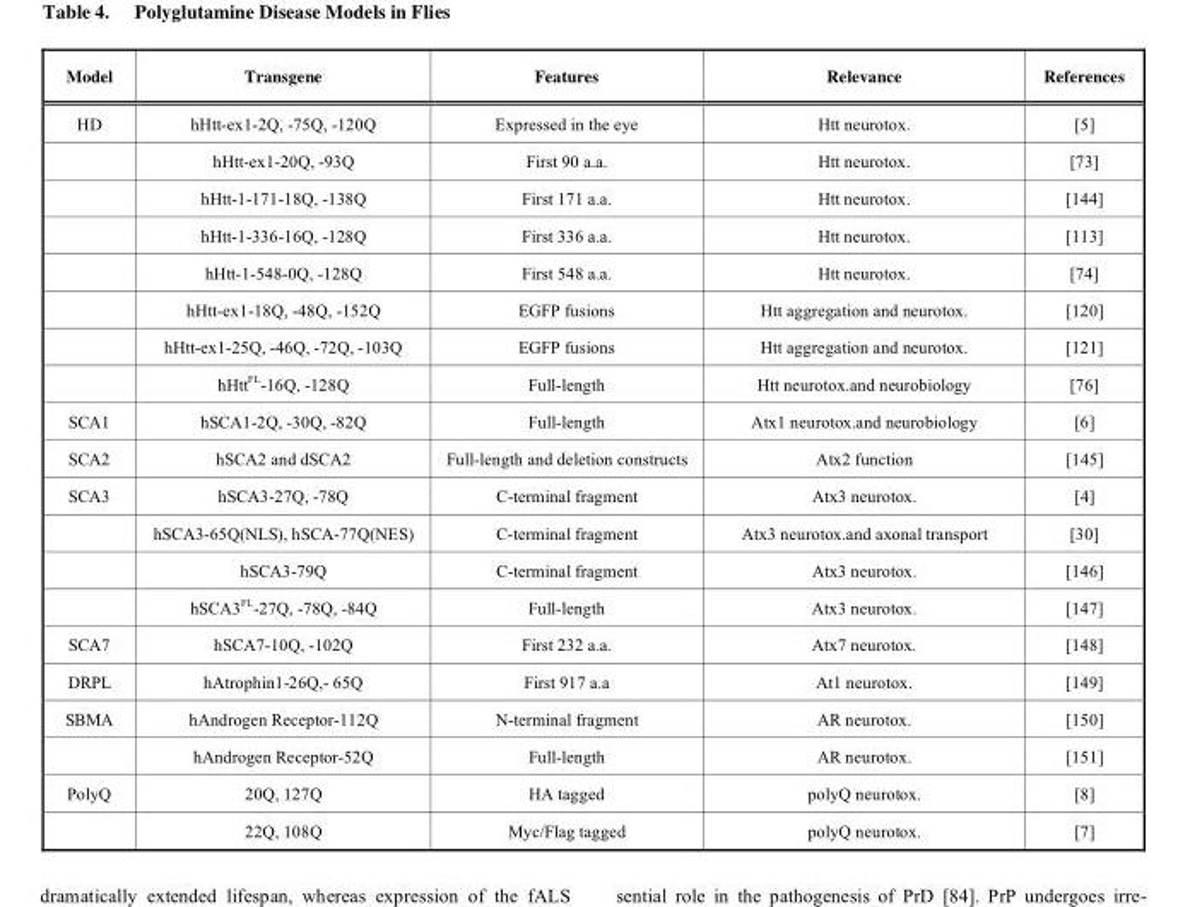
<table><thead><tr><td>Model</td><td>Transgene</td><td>Features</td><td>Relevance</td><td>References</td></tr></thead><tbody><tr><td rowspan="8">HD</td><td>hHtt-ex1-2Q, -75Q, -120Q</td><td>Expressed in the eye</td><td>Htt neurotox.</td><td>[5]</td></tr><tr><td>hHtt-ex1-20Q, -93Q</td><td>First 90 a.a.</td><td>Htt neurotox.</td><td>[73]</td></tr><tr><td>hHtt-1-171-18Q, -138Q</td><td>First 171 a.a.</td><td>Htt neurotox.</td><td>[144]</td></tr><tr><td>hHtt-1-336-16Q, -128Q</td><td>First 336 a.a.</td><td>Htt neurotox.</td><td>[113]</td></tr><tr><td>hHtt-1-548-0Q, -128Q</td><td>First 548 a.a.</td><td>Htt neurotox.</td><td>[74]</td></tr><tr><td>hHtt-ex1-18Q, -48Q, -152Q</td><td>EGFP fusions</td><td>Htt aggregation and neurotox.</td><td>[120]</td></tr><tr><td>hHtt-ex1-25Q, -46Q, -72Q, -103Q</td><td>EGFP fusions</td><td>Htt aggregation and neurotox.</td><td>[121]</td></tr><tr><td>hHtt<sup>FL</sup>-16Q, -128Q</td><td>Full-length</td><td>Htt neurotox.and neurobiology</td><td>[76]</td></tr><tr><td>SCA1</td><td>hSCA1-2Q, -30Q, -82Q</td><td>Full-length</td><td>Atx1 neurotox.and neurobiology</td><td>[6]</td></tr><tr><td>SCA2</td><td>hSCA2 and dSCA2</td><td>Full-length and deletion constructs</td><td>Atx2 function</td><td>[145]</td></tr><tr><td rowspan="4">SCA3</td><td>hSCA3-27Q, -78Q</td><td>C-terminal fragment</td><td>Atx3 neurotox.</td><td>[4]</td></tr><tr><td>hSCA3-65Q(NLS), hSCA-77Q(NES)</td><td>C-terminal fragment</td><td>Atx3 neurotox.and axonal transport</td><td>[30]</td></tr><tr><td>hSCA3-79Q</td><td>C-terminal fragment</td><td>Atx3 neurotox.</td><td>[146]</td></tr><tr><td>hSCA3<sup>FL</sup>-27Q, -78Q, -84Q</td><td>Full-length</td><td>Atx3 neurotox.</td><td>[147]</td></tr><tr><td>SCA7</td><td>hSCA7-10Q, -102Q</td><td>First 232 a.a.</td><td>Atx7 neurotox.</td><td>[148]</td></tr><tr><td>DRPL</td><td>hAtrophin1-26Q,- 65Q</td><td>First 917 a.a</td><td>At1 neurotox.</td><td>[149]</td></tr><tr><td rowspan="2">SBMA</td><td>hAndrogen Receptor-112Q</td><td>N-terminal fragment</td><td>AR neurotox.</td><td>[150]</td></tr><tr><td>hAndrogen Receptor-52Q</td><td>Full-length</td><td>AR neurotox.</td><td>[151]</td></tr><tr><td rowspan="2">PolyQ</td><td>20Q, 127Q</td><td>HA tagged</td><td>polyQ neurotox.</td><td>[8]</td></tr><tr><td>22Q, 108Q</td><td>Myc/Flag tagged</td><td>polyQ neurotox.</td><td>[7]</td></tr></tbody></table>